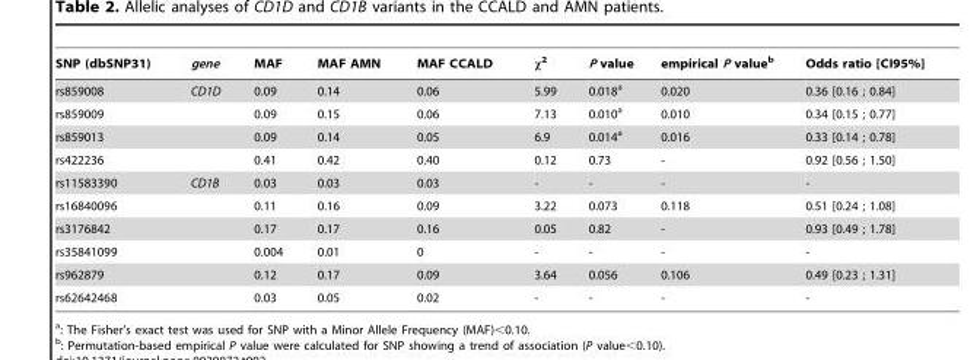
<table><thead><tr><td>SNP (dbSNP31)</td><td>gene</td><td>MAF</td><td>MAF AMN</td><td>MAF CCALD</td><td>χ<sup>2</sup></td><td>P value</td><td>empirical P value<sup>b</sup></td><td>Odds ratio [CI95%]</td></tr></thead><tbody><tr><td>rs859008</td><td>CD1D</td><td>0.09</td><td>0.14</td><td>0.06</td><td>5.99</td><td>0.018<sup>a</sup></td><td>0.020</td><td>0.36 [0.16 ; 0.84]</td></tr><tr><td>rs859009</td><td></td><td>0.09</td><td>0.15</td><td>0.06</td><td>7.13</td><td>0.010<sup>a</sup></td><td>0.010</td><td>0.34 [0.15 ; 0.77]</td></tr><tr><td>rs859013</td><td></td><td>0.09</td><td>0.14</td><td>0.05</td><td>6.9</td><td>0.014<sup>a</sup></td><td>0.016</td><td>0.33 [0.14 ; 0.78]</td></tr><tr><td>rs422236</td><td></td><td>0.41</td><td>0.42</td><td>0.40</td><td>0.12</td><td>0.73</td><td>-</td><td>0.92 [0.56 ; 1.50]</td></tr><tr><td>rs11583390</td><td>CD1B</td><td>0.03</td><td>0.03</td><td>0.03</td><td>-</td><td>-</td><td>-</td><td>-</td></tr><tr><td>rs16840096</td><td></td><td>0.11</td><td>0.16</td><td>0.09</td><td>3.22</td><td>0.073</td><td>0.118</td><td>0.51 [0.24 ; 1.08]</td></tr><tr><td>rs3176842</td><td></td><td>0.17</td><td>0.17</td><td>0.16</td><td>0.05</td><td>0.82</td><td>-</td><td>0.93 [0.49 ; 1.78]</td></tr><tr><td>rs35841099</td><td></td><td>0.004</td><td>0.01</td><td>0</td><td>-</td><td>-</td><td>-</td><td>-</td></tr><tr><td>rs962879</td><td></td><td>0.12</td><td>0.17</td><td>0.09</td><td>3.64</td><td>0.056</td><td>0.106</td><td>0.49 [0.23 ; 1.31]</td></tr><tr><td>rs62642468</td><td></td><td>0.03</td><td>0.05</td><td>0.02</td><td>-</td><td>-</td><td>-</td><td>-</td></tr></tbody></table>